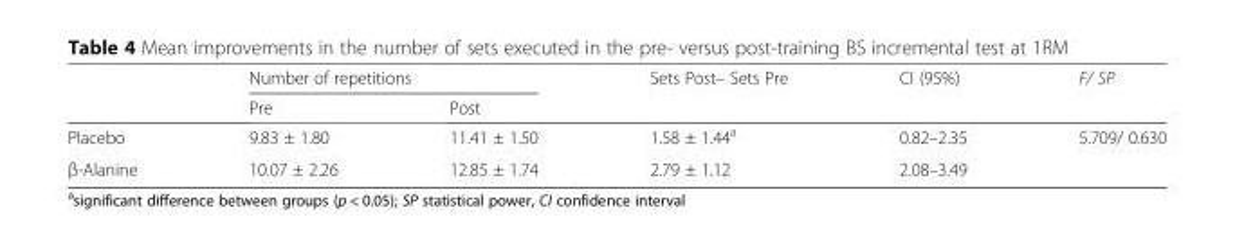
<table><thead><tr><td rowspan="2"></td><td colspan="2">Number of repetitions</td><td rowspan="2">Sets Post– Sets Pre</td><td rowspan="2">CI (95%)</td><td rowspan="2">F/ SP</td></tr><tr><td>Pre</td><td>Post</td></tr></thead><tbody><tr><td>Placebo</td><td>9.83 ± 1.80</td><td>11.41 ± 1.50</td><td>1.58 ± 1.44<sup>a</sup></td><td>0.82–2.35</td><td rowspan="2">5.709/ 0.630</td></tr><tr><td>β-Alanine</td><td>10.07 ± 2.26</td><td>12.85 ± 1.74</td><td>2.79 ± 1.12</td><td>2.08–3.49</td></tr></tbody></table>